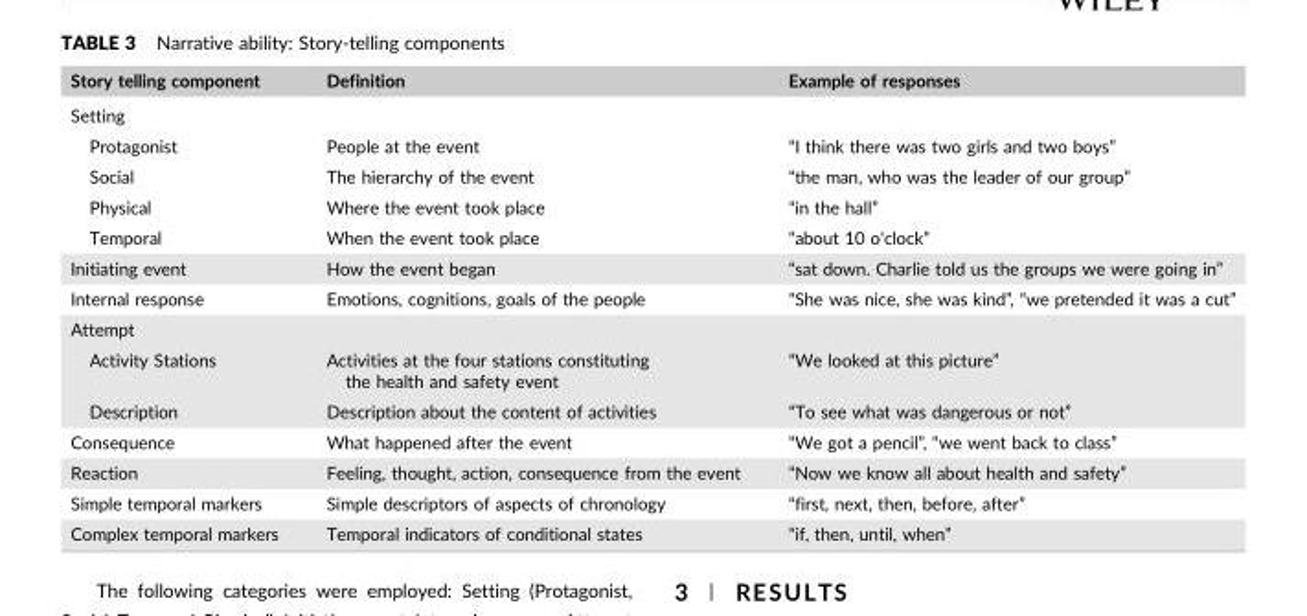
<table><thead><tr><td>Story telling component</td><td>Definition</td><td>Example of responses</td></tr></thead><tbody><tr><td colspan="3">Setting</td></tr><tr><td>Protagonist</td><td>People at the event</td><td>“I think there was two girls and two boys”</td></tr><tr><td>Social</td><td>The hierarchy of the event</td><td>“the man, who was the leader of our group”</td></tr><tr><td>Physical</td><td>Where the event took place</td><td>“in the hall”</td></tr><tr><td>Temporal</td><td>When the event took place</td><td>“about 10 o&#x27;clock”</td></tr><tr><td>Initiating event</td><td>How the event began</td><td>“sat down. Charlie told us the groups we were going in”</td></tr><tr><td>Internal response</td><td>Emotions, cognitions, goals of the people</td><td>“She was nice, she was kind”, “we pretended it was a cut”</td></tr><tr><td colspan="3">Attempt</td></tr><tr><td>Activity Stations</td><td>Activities at the four stations constituting the health and safety event</td><td>“We looked at this picture”</td></tr><tr><td>Description</td><td>Description about the content of activities</td><td>“To see what was dangerous or not”</td></tr><tr><td>Consequence</td><td>What happened after the event</td><td>“We got a pencil”, “we went back to class”</td></tr><tr><td>Reaction</td><td>Feeling, thought, action, consequence from the event</td><td>“Now we know all about health and safety”</td></tr><tr><td>Simple temporal markers</td><td>Simple descriptors of aspects of chronology</td><td>“first, next, then, before, after”</td></tr><tr><td>Complex temporal markers</td><td>Temporal indicators of conditional states</td><td>“if, then, until, when”</td></tr></tbody></table>